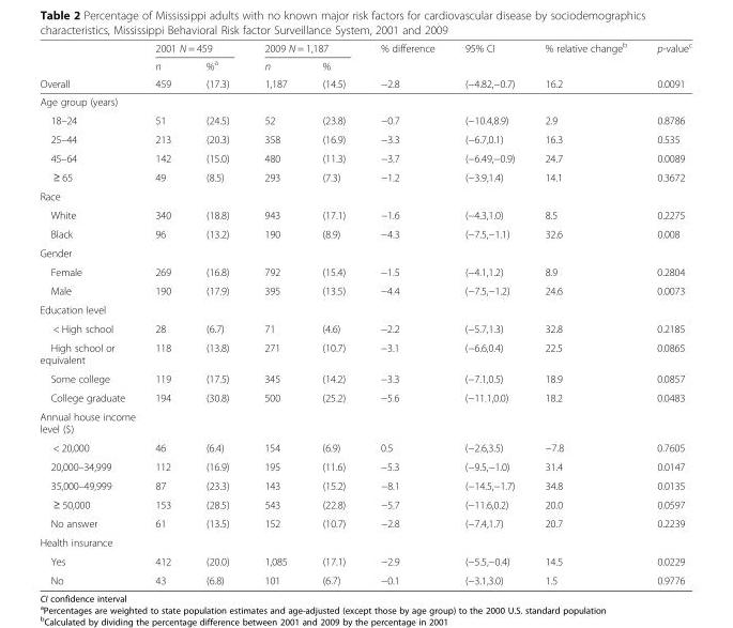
<table><thead><tr><td rowspan="3">Overall</td><td colspan="2">2001 N = 459</td><td colspan="2">2009 N = 1,187</td><td rowspan="3">% difference −2.8</td><td rowspan="3">95% CI (−4.82,−0.7)</td><td rowspan="3">% relative change<sup>b</sup> 16.2</td><td rowspan="3">p-value<sup>c</sup> 0.0091</td></tr><tr><td rowspan="2">n 459</td><td rowspan="2">%<sup>a</sup> (17.3)</td><td rowspan="2">n 1,187</td><td rowspan="2">% (14.5)</td></tr><tr></tr></thead><tbody><tr><td colspan="9">Age group (years)</td></tr><tr><td>18–24</td><td>51</td><td>(24.5)</td><td>52</td><td>(23.8)</td><td>−0.7</td><td>(−10.4,8.9)</td><td>2.9</td><td>0.8786</td></tr><tr><td>25–44</td><td>213</td><td>(20.3)</td><td>358</td><td>(16.9)</td><td>−3.3</td><td>(−6.7,0.1)</td><td>16.3</td><td>0.535</td></tr><tr><td>45–64</td><td>142</td><td>(15.0)</td><td>480</td><td>(11.3)</td><td>−3.7</td><td>(−6.49,−0.9)</td><td>24.7</td><td>0.0089</td></tr><tr><td>≥ 65</td><td>49</td><td>(8.5)</td><td>293</td><td>(7.3)</td><td>−1.2</td><td>(−3.9,1.4)</td><td>14.1</td><td>0.3672</td></tr><tr><td colspan="9">Race</td></tr><tr><td>White</td><td>340</td><td>(18.8)</td><td>943</td><td>(17.1)</td><td>−1.6</td><td>(−4.3,1.0)</td><td>8.5</td><td>0.2275</td></tr><tr><td>Black</td><td>96</td><td>(13.2)</td><td>190</td><td>(8.9)</td><td>−4.3</td><td>(−7.5,−1.1)</td><td>32.6</td><td>0.008</td></tr><tr><td colspan="9">Gender</td></tr><tr><td>Female</td><td>269</td><td>(16.8)</td><td>792</td><td>(15.4)</td><td>−1.5</td><td>(−4.1,1.2)</td><td>8.9</td><td>0.2804</td></tr><tr><td>Male</td><td>190</td><td>(17.9)</td><td>395</td><td>(13.5)</td><td>−4.4</td><td>(−7.5,−1.2)</td><td>24.6</td><td>0.0073</td></tr><tr><td colspan="9">Education level</td></tr><tr><td>&lt; High school</td><td>28</td><td>(6.7)</td><td>71</td><td>(4.6)</td><td>−2.2</td><td>(−5.7,1.3)</td><td>32.8</td><td>0.2185</td></tr><tr><td>High school or equivalent</td><td>118</td><td>(13.8)</td><td>271</td><td>(10.7)</td><td>−3.1</td><td>(−6.6,0.4)</td><td>22.5</td><td>0.0865</td></tr><tr><td>Some college</td><td>119</td><td>(17.5)</td><td>345</td><td>(14.2)</td><td>−3.3</td><td>(−7.1,0.5)</td><td>18.9</td><td>0.0857</td></tr><tr><td>College graduate</td><td>194</td><td>(30.8)</td><td>500</td><td>(25.2)</td><td>−5.6</td><td>(−11.1,0.0)</td><td>18.2</td><td>0.0483</td></tr><tr><td colspan="9">Annual house income level ($)</td></tr><tr><td>&lt; 20,000</td><td>46</td><td>(6.4)</td><td>154</td><td>(6.9)</td><td>0.5</td><td>(−2.6,3.5)</td><td>−7.8</td><td>0.7605</td></tr><tr><td>20,000–34,999</td><td>112</td><td>(16.9)</td><td>195</td><td>(11.6)</td><td>−5.3</td><td>(−9.5,−1.0)</td><td>31.4</td><td>0.0147</td></tr><tr><td>35,000–49,999</td><td>87</td><td>(23.3)</td><td>143</td><td>(15.2)</td><td>−8.1</td><td>(−14.5,−1.7)</td><td>34.8</td><td>0.0135</td></tr><tr><td>≥ 50,000</td><td>153</td><td>(28.5)</td><td>543</td><td>(22.8)</td><td>−5.7</td><td>(−11.6,0.2)</td><td>20.0</td><td>0.0597</td></tr><tr><td>No answer</td><td>61</td><td>(13.5)</td><td>152</td><td>(10.7)</td><td>−2.8</td><td>(−7.4,1.7)</td><td>20.7</td><td>0.2239</td></tr><tr><td colspan="9">Health insurance</td></tr><tr><td>Yes</td><td>412</td><td>(20.0)</td><td>1,085</td><td>(17.1)</td><td>−2.9</td><td>(−5.5,−0.4)</td><td>14.5</td><td>0.0229</td></tr><tr><td>No</td><td>43</td><td>(6.8)</td><td>101</td><td>(6.7)</td><td>−0.1</td><td>(−3.1,3.0)</td><td>1.5</td><td>0.9776</td></tr></tbody></table>